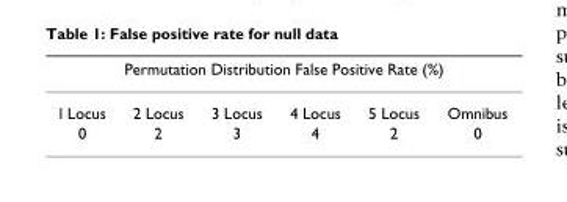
<table><thead><tr><td colspan="6">Permutation Distribution False Positive Rate (%)</td></tr><tr><td>l Locus</td><td>2 Locus</td><td>3 Locus</td><td>4 Locus</td><td>5 Locus</td><td>Omnibus</td></tr></thead><tbody><tr><td>0</td><td>2</td><td>3</td><td>4</td><td>2</td><td>0</td></tr></tbody></table>